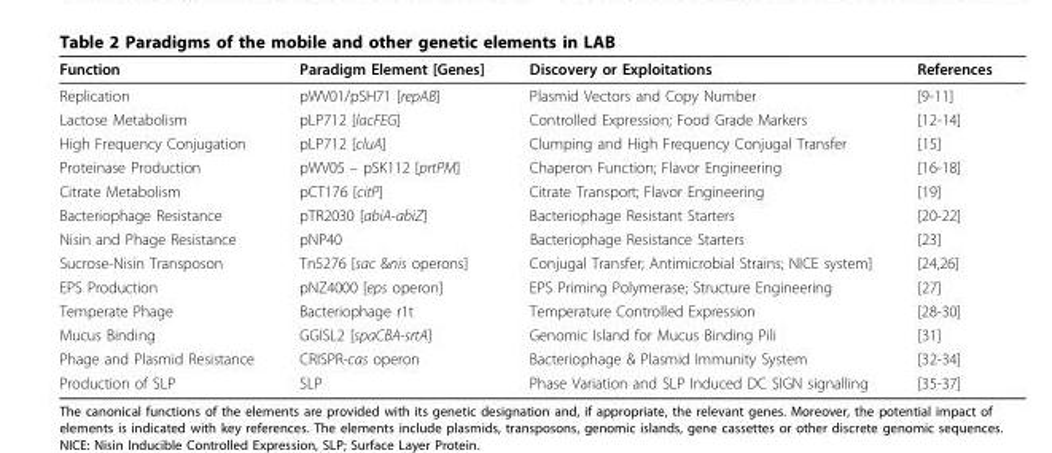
<table><thead><tr><td>Function</td><td>Paradigm Element [Genes]</td><td>Discovery or Exploitations</td><td>References</td></tr></thead><tbody><tr><td>Replication</td><td>pWV01/pSH71 [repAB]</td><td>Plasmid Vectors and Copy Number</td><td>[9-11]</td></tr><tr><td>Lactose Metabolism</td><td>pLP712 [lacFEG]</td><td>Controlled Expression; Food Grade Markers</td><td>[12-14]</td></tr><tr><td>High Frequency Conjugation</td><td>pLP712 [cluA]</td><td>Clumping and High Frequency Conjugal Transfer</td><td>[15]</td></tr><tr><td>Proteinase Production</td><td>pWV05 – pSK112 [prtPM]</td><td>Chaperon Function; Flavor Engineering</td><td>[16-18]</td></tr><tr><td>Citrate Metabolism</td><td>pCT176 [citP]</td><td>Citrate Transport; Flavor Engineering</td><td>[19]</td></tr><tr><td>Bacteriophage Resistance</td><td>pTR2030 [abiA-abiZ]</td><td>Bacteriophage Resistant Starters</td><td>[20-22]</td></tr><tr><td>Nisin and Phage Resistance</td><td>pNP40</td><td>Bacteriophage Resistance Starters</td><td>[23]</td></tr><tr><td>Sucrose-Nisin Transposon</td><td>Tn5276 [sac &amp;nis operons]</td><td>Conjugal Transfer; Antimicrobial Strains; NICE system]</td><td>[24,26]</td></tr><tr><td>EPS Production</td><td>pNZ4000 [eps operon]</td><td>EPS Priming Polymerase; Structure Engineering</td><td>[27]</td></tr><tr><td>Temperate Phage</td><td>Bacteriophage r1t</td><td>Temperature Controlled Expression</td><td>[28-30]</td></tr><tr><td>Mucus Binding</td><td>GGISL2 [spaCBA-srtA]</td><td>Genomic Island for Mucus Binding Pili</td><td>[31]</td></tr><tr><td>Phage and Plasmid Resistance</td><td>CRISPR-cas operon</td><td>Bacteriophage &amp; Plasmid Immunity System</td><td>[32-34]</td></tr><tr><td>Production of SLP</td><td>SLP</td><td>Phase Variation and SLP Induced DC SIGN signalling</td><td>[35-37]</td></tr></tbody></table>